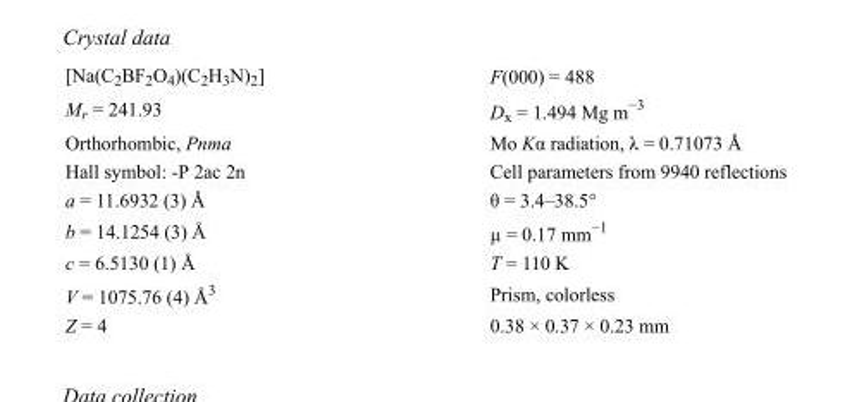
<table><tbody><tr><td>[Na(C<sub>2</sub>BF<sub>2</sub>O<sub>4</sub>)(C<sub>2</sub>H<sub>3</sub>N)<sub>2</sub>]</td><td>F(000) = 488</td></tr><tr><td>M<sub>r</sub> = 241.93</td><td>D<sub>x</sub> = 1.494 Mg m<sup>−3</sup></td></tr><tr><td>Orthorhombic, Pnma</td><td>Mo Kα radiation, λ = 0.71073 Å</td></tr><tr><td>Hall symbol: -P 2ac 2n</td><td>Cell parameters from 9940 reflections</td></tr><tr><td>a = 11.6932 (3) Å</td><td>θ = 3.4–38.5°</td></tr><tr><td>b = 14.1254 (3) Å</td><td>µ = 0.17 mm<sup>−1</sup></td></tr><tr><td>c = 6.5130 (1) Å</td><td>T = 110 K</td></tr><tr><td>V = 1075.76 (4) Å<sup>3</sup></td><td>Prism, colorless</td></tr><tr><td>Z = 4</td><td>0.38 × 0.37 × 0.23 mm</td></tr></tbody></table>